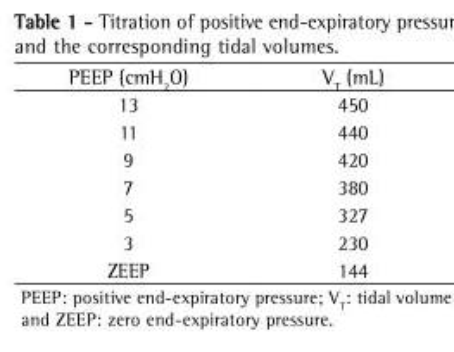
<table><thead><tr><td>PEEP (cmH<sub>2</sub>O)</td><td>V<sub>T</sub> (mL)</td></tr></thead><tbody><tr><td>13</td><td>450</td></tr><tr><td>11</td><td>440</td></tr><tr><td>9</td><td>420</td></tr><tr><td>7</td><td>380</td></tr><tr><td>5</td><td>327</td></tr><tr><td>3</td><td>230</td></tr><tr><td>ZEEP</td><td>144</td></tr></tbody></table>